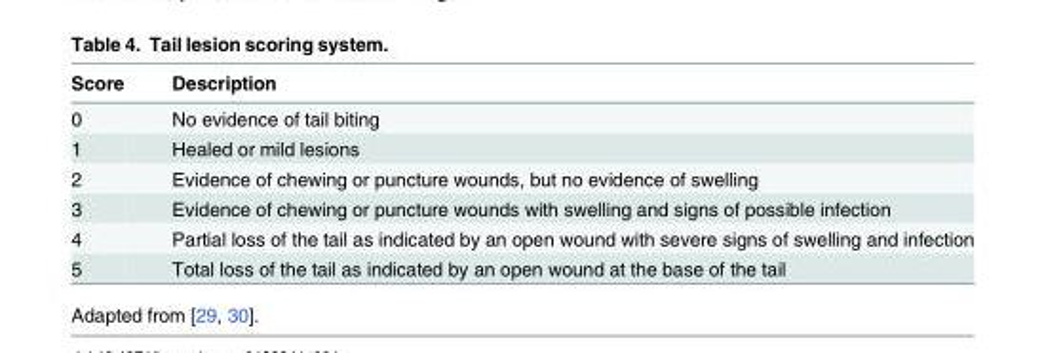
<table><thead><tr><td>Score</td><td>Description</td></tr></thead><tbody><tr><td>0</td><td>No evidence of tail biting</td></tr><tr><td>1</td><td>Healed or mild lesions</td></tr><tr><td>2</td><td>Evidence of chewing or puncture wounds, but no evidence of swelling</td></tr><tr><td>3</td><td>Evidence of chewing or puncture wounds with swelling and signs of possible infection</td></tr><tr><td>4</td><td>Partial loss of the tail as indicated by an open wound with severe signs of swelling and infection</td></tr><tr><td>5</td><td>Total loss of the tail as indicated by an open wound at the base of the tail</td></tr></tbody></table>